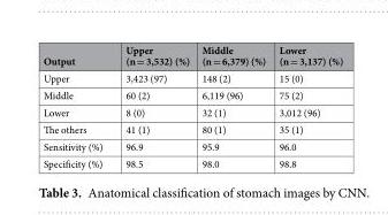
<table><thead><tr><td>Output</td><td>Upper (n = 3,532) (%)</td><td>Middle (n = 6,379) (%)</td><td>Lower (n = 3,137) (%)</td></tr></thead><tbody><tr><td>Upper</td><td>3,423 (97)</td><td>148 (2)</td><td>15 (0)</td></tr><tr><td>Middle</td><td>60 (2)</td><td>6,119 (96)</td><td>75 (2)</td></tr><tr><td>Lower</td><td>8 (0)</td><td>32 (1)</td><td>3,012 (96)</td></tr><tr><td>The others</td><td>41 (1)</td><td>80 (1)</td><td>35 (1)</td></tr><tr><td>Sensitivity (%)</td><td>96.9</td><td>95.9</td><td>96.0</td></tr><tr><td>Specificity (%)</td><td>98.5</td><td>98.0</td><td>98.8</td></tr></tbody></table>